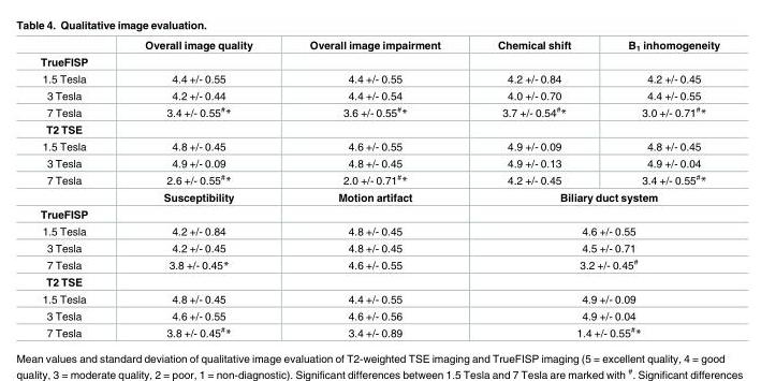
<table><thead><tr><td></td><td>Overall image quality</td><td>Overall image impairment</td><td>Chemical shift</td><td>B<sub>1</sub> inhomogeneity</td></tr></thead><tbody><tr><td colspan="5">TrueFISP</td></tr><tr><td>1.5 Tesla</td><td>4.4 +/- 0.55</td><td>4.4 +/- 0.55</td><td>4.2 +/- 0.84</td><td>4.2 +/- 0.45</td></tr><tr><td>3 Tesla</td><td>4.2 +/- 0.44</td><td>4.4 +/- 0.54</td><td>4.0 +/- 0.70</td><td>4.4 +/- 0.55</td></tr><tr><td>7 Tesla</td><td>3.4 +/- 0.55<sup>#</sup>*</td><td>3.6 +/- 0.55<sup>#</sup>*</td><td>3.7 +/- 0.54<sup>#</sup>*</td><td>3.0 +/- 0.71<sup>#</sup>*</td></tr><tr><td colspan="5">T2 TSE</td></tr><tr><td>1.5 Tesla</td><td>4.8 +/- 0.45</td><td>4.6 +/- 0.55</td><td>4.9 +/- 0.09</td><td>4.8 +/- 0.45</td></tr><tr><td>3 Tesla</td><td>4.9 +/- 0.09</td><td>4.8 +/- 0.45</td><td>4.9 +/- 0.13</td><td>4.9 +/- 0.04</td></tr><tr><td rowspan="2">7 Tesla</td><td>2.6 +/- 0.55<sup>#</sup>*</td><td>2.0 +/- 0.71<sup>#</sup>*</td><td>4.2 +/- 0.45</td><td>3.4 +/- 0.55<sup>#</sup>*</td></tr><tr><td>Susceptibility</td><td>Motion artifact</td><td colspan="2">Biliary duct system</td></tr><tr><td colspan="5">TrueFISP</td></tr><tr><td>1.5 Tesla</td><td>4.2 +/- 0.84</td><td>4.8 +/- 0.45</td><td colspan="2">4.6 +/- 0.55</td></tr><tr><td>3 Tesla</td><td>4.2 +/- 0.45</td><td>4.8 +/- 0.45</td><td colspan="2">4.5 +/- 0.71</td></tr><tr><td>7 Tesla</td><td>3.8 +/- 0.45*</td><td>4.6 +/- 0.55</td><td colspan="2">3.2 +/- 0.45<sup>#</sup></td></tr><tr><td colspan="5">T2 TSE</td></tr><tr><td>1.5 Tesla</td><td>4.8 +/- 0.45</td><td>4.4 +/- 0.55</td><td colspan="2">4.9 +/- 0.09</td></tr><tr><td>3 Tesla</td><td>4.6 +/- 0.55</td><td>4.6 +/- 0.56</td><td colspan="2">4.9 +/- 0.04</td></tr><tr><td>7 Tesla</td><td>3.8 +/- 0.45<sup>#</sup>*</td><td>3.4 +/- 0.89</td><td colspan="2">1.4 +/- 0.55<sup>#</sup>*</td></tr></tbody></table>